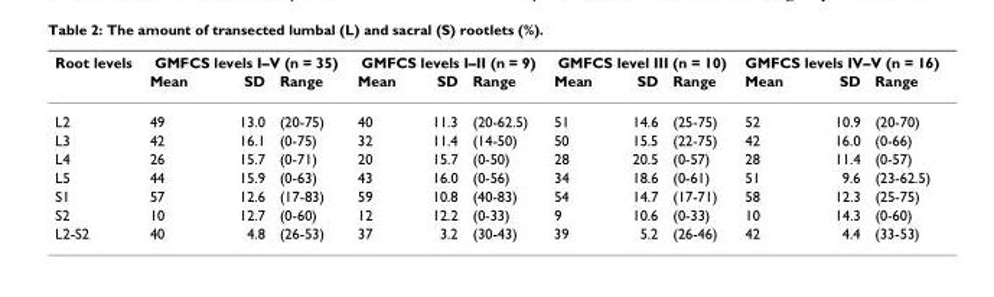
<table><thead><tr><td rowspan="2">Root levels</td><td colspan="3">GMFCS levels I–V (n = 35)</td><td colspan="3">GMFCS levels I–II (n = 9)</td><td colspan="3">GMFCS level III (n = 10)</td><td colspan="3">GMFCS levels IV–V (n = 16)</td></tr><tr><td>Mean</td><td>SD</td><td>Range</td><td>Mean</td><td>SD</td><td>Range</td><td>Mean</td><td>SD</td><td>Range</td><td>Mean</td><td>SD</td><td>Range</td></tr></thead><tbody><tr><td>L2</td><td>49</td><td>13.0</td><td>(20-75)</td><td>40</td><td>11.3</td><td>(20-62.5)</td><td>51</td><td>14.6</td><td>(25-75)</td><td>52</td><td>10.9</td><td>(20-70)</td></tr><tr><td>L3</td><td>42</td><td>16.1</td><td>(0-75)</td><td>32</td><td>11.4</td><td>(14-50)</td><td>50</td><td>15.5</td><td>(22-75)</td><td>42</td><td>16.0</td><td>(0-66)</td></tr><tr><td>L4</td><td>26</td><td>15.7</td><td>(0-71)</td><td>20</td><td>15.7</td><td>(0-50)</td><td>28</td><td>20.5</td><td>(0-57)</td><td>28</td><td>11.4</td><td>(0-57)</td></tr><tr><td>L5</td><td>44</td><td>15.9</td><td>(0-63)</td><td>43</td><td>16.0</td><td>(0-56)</td><td>34</td><td>18.6</td><td>(0-61)</td><td>51</td><td>9.6</td><td>(23-62.5)</td></tr><tr><td>S1</td><td>57</td><td>12.6</td><td>(17-83)</td><td>59</td><td>10.8</td><td>(40-83)</td><td>54</td><td>14.7</td><td>(17-71)</td><td>58</td><td>12.3</td><td>(25-75)</td></tr><tr><td>S2</td><td>10</td><td>12.7</td><td>(0-60)</td><td>12</td><td>12.2</td><td>(0-33)</td><td>9</td><td>10.6</td><td>(0-33)</td><td>10</td><td>14.3</td><td>(0-60)</td></tr><tr><td>L2-S2</td><td>40</td><td>4.8</td><td>(26-53)</td><td>37</td><td>3.2</td><td>(30-43)</td><td>39</td><td>5.2</td><td>(26-46)</td><td>42</td><td>4.4</td><td>(33-53)</td></tr></tbody></table>